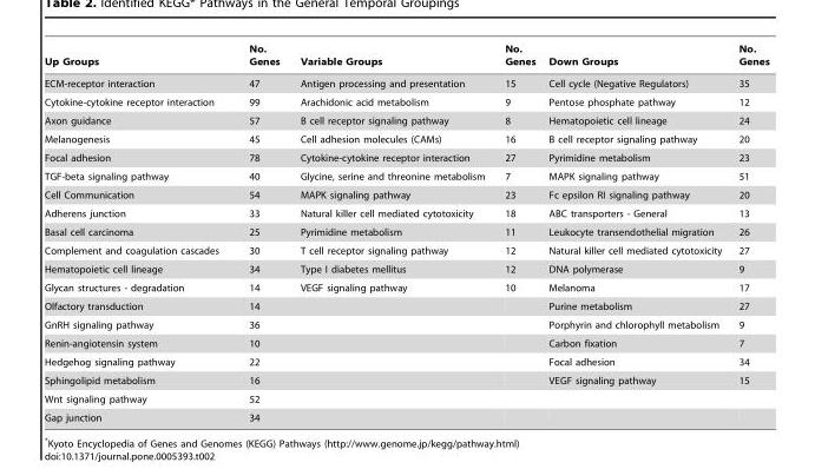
<table><thead><tr><td>Up Groups</td><td>No. Genes</td><td>Variable Groups</td><td>No. Genes</td><td>Down Groups</td><td>No. Genes</td></tr></thead><tbody><tr><td>ECM-receptor interaction</td><td>47</td><td>Antigen processing and presentation</td><td>15</td><td>Cell cycle (Negative Regulators)</td><td>35</td></tr><tr><td>Cytokine-cytokine receptor interaction</td><td>99</td><td>Arachidonic acid metabolism</td><td>9</td><td>Pentose phosphate pathway</td><td>12</td></tr><tr><td>Axon guidance</td><td>57</td><td>B cell receptor signaling pathway</td><td>8</td><td>Hematopoietic cell lineage</td><td>24</td></tr><tr><td>Melanogenesis</td><td>45</td><td>Cell adhesion molecules (CAMs)</td><td>16</td><td>B cell receptor signaling pathway</td><td>20</td></tr><tr><td>Focal adhesion</td><td>78</td><td>Cytokine-cytokine receptor interaction</td><td>27</td><td>Pyrimidine metabolism</td><td>23</td></tr><tr><td>TGF-beta signaling pathway</td><td>40</td><td>Glycine, serine and threonine metabolism</td><td>7</td><td>MAPK signaling pathway</td><td>51</td></tr><tr><td>Cell Communication</td><td>54</td><td>MAPK signaling pathway</td><td>23</td><td>Fc epsilon RI signaling pathway</td><td>20</td></tr><tr><td>Adherens junction</td><td>33</td><td>Natural killer cell mediated cytotoxicity</td><td>18</td><td>ABC transporters - General</td><td>13</td></tr><tr><td>Basal cell carcinoma</td><td>25</td><td>Pyrimidine metabolism</td><td>11</td><td>Leukocyte transendothelial migration</td><td>26</td></tr><tr><td>Complement and coagulation cascades</td><td>30</td><td>T cell receptor signaling pathway</td><td>12</td><td>Natural killer cell mediated cytotoxicity</td><td>27</td></tr><tr><td>Hematopoietic cell lineage</td><td>34</td><td>Type I diabetes mellitus</td><td>12</td><td>DNA polymerase</td><td>9</td></tr><tr><td>Glycan structures - degradation</td><td>14</td><td>VEGF signaling pathway</td><td>10</td><td>Melanoma</td><td>17</td></tr><tr><td>Olfactory transduction</td><td>14</td><td></td><td></td><td>Purine metabolism</td><td>27</td></tr><tr><td>GnRH signaling pathway</td><td>36</td><td></td><td></td><td>Porphyrin and chlorophyll metabolism</td><td>9</td></tr><tr><td>Renin-angiotensin system</td><td>10</td><td></td><td></td><td>Carbon fixation</td><td>7</td></tr><tr><td>Hedgehog signaling pathway</td><td>22</td><td></td><td></td><td>Focal adhesion</td><td>34</td></tr><tr><td>Sphingolipid metabolism</td><td>16</td><td></td><td></td><td>VEGF signaling pathway</td><td>15</td></tr><tr><td>Wnt signaling pathway</td><td>52</td><td></td><td></td><td></td><td></td></tr><tr><td>Gap junction</td><td>34</td><td></td><td></td><td></td><td></td></tr></tbody></table>